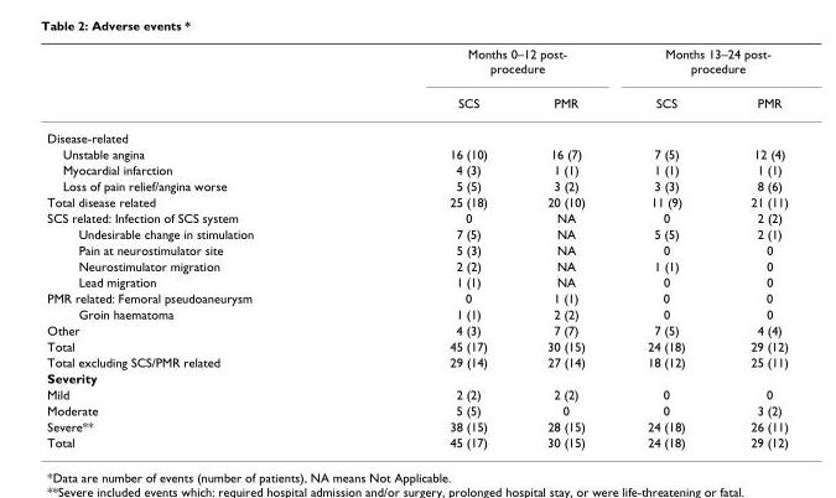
<table><thead><tr><td rowspan="2"></td><td colspan="2">Months 0–12 post- procedure</td><td colspan="2">Months 13–24 post- procedure</td></tr><tr><td>SCS</td><td>PMR</td><td>SCS</td><td>PMR</td></tr></thead><tbody><tr><td colspan="5">Disease-related</td></tr><tr><td>Unstable angina</td><td>16 (10)</td><td>16 (7)</td><td>7 (5)</td><td>12 (4)</td></tr><tr><td>Myocardial infarction</td><td>4 (3)</td><td>1 (1)</td><td>1 (1)</td><td>1 (1)</td></tr><tr><td>Loss of pain relief/angina worse</td><td>5 (5)</td><td>3 (2)</td><td>3 (3)</td><td>8 (6)</td></tr><tr><td>Total disease related</td><td>25 (18)</td><td>20 (10)</td><td>11 (9)</td><td>21 (11)</td></tr><tr><td>SCS related: Infection of SCS system</td><td>0</td><td>NA</td><td>0</td><td>2 (2)</td></tr><tr><td>Undesirable change in stimulation</td><td>7 (5)</td><td>NA</td><td>5 (5)</td><td>2 (1)</td></tr><tr><td>Pain at neurostimulator site</td><td>5 (3)</td><td>NA</td><td>0</td><td>0</td></tr><tr><td>Neurostimulator migration</td><td>2 (2)</td><td>NA</td><td>1 (1)</td><td>0</td></tr><tr><td>Lead migration</td><td>1 (1)</td><td>NA</td><td>0</td><td>0</td></tr><tr><td>PMR related: Femoral pseudoaneurysm</td><td>0</td><td>1 (1)</td><td>0</td><td>0</td></tr><tr><td>Groin haematoma</td><td>1 (1)</td><td>2 (2)</td><td>0</td><td>0</td></tr><tr><td>Other</td><td>4 (3)</td><td>7 (7)</td><td>7 (5)</td><td>4 (4)</td></tr><tr><td>Total</td><td>45 (17)</td><td>30 (15)</td><td>24 (18)</td><td>29 (12)</td></tr><tr><td>Total excluding SCS/PMR related</td><td>29 (14)</td><td>27 (14)</td><td>18 (12)</td><td>25 (11)</td></tr><tr><td colspan="5">Severity</td></tr><tr><td>Mild</td><td>2 (2)</td><td>2 (2)</td><td>0</td><td>0</td></tr><tr><td>Moderate</td><td>5 (5)</td><td>0</td><td>0</td><td>3 (2)</td></tr><tr><td>Severe**</td><td>38 (15)</td><td>28 (15)</td><td>24 (18)</td><td>26 (11)</td></tr><tr><td>Total</td><td>45 (17)</td><td>30 (15)</td><td>24 (18)</td><td>29 (12)</td></tr></tbody></table>